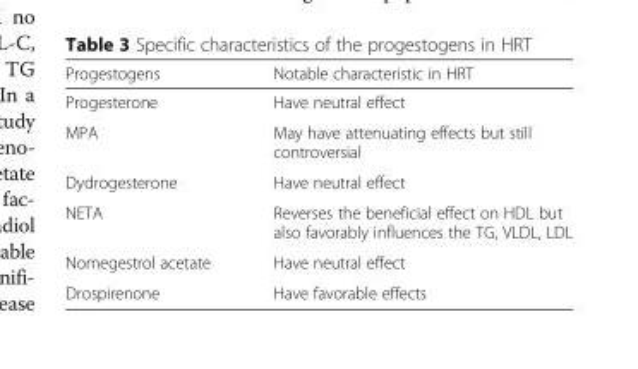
<table><thead><tr><td>Progestogens</td><td>Notable characteristic in HRT</td></tr></thead><tbody><tr><td>Progesterone</td><td>Have neutral effect</td></tr><tr><td>MPA</td><td>May have attenuating effects but still controversial</td></tr><tr><td>Dydrogesterone</td><td>Have neutral effect</td></tr><tr><td>NETA</td><td>Reverses the beneficial effect on HDL but also favorably influences the TG, VLDL, LDL</td></tr><tr><td>Nomegestrol acetate</td><td>Have neutral effect</td></tr><tr><td>Drospirenone</td><td>Have favorable effects</td></tr></tbody></table>